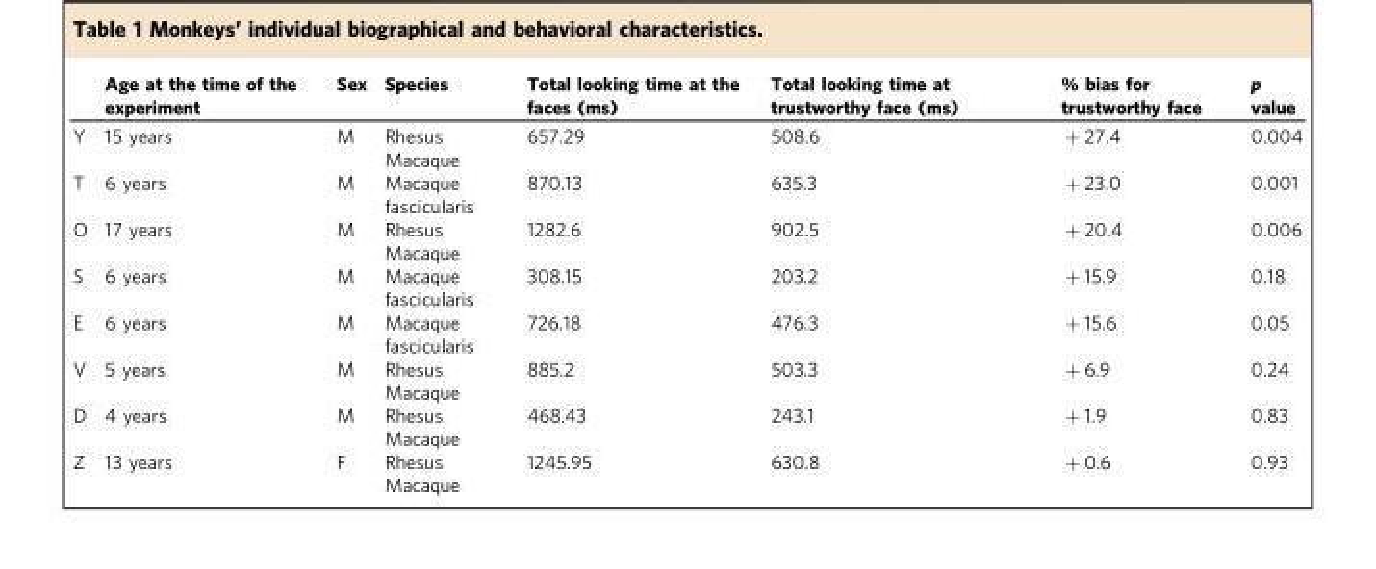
<table><thead><tr><td></td><td>Age at the time of the experiment</td><td>Sex</td><td>Species</td><td>Total looking time at the faces (ms)</td><td>Total looking time at trustworthy face (ms)</td><td>% bias for trustworthy face</td><td>p value</td></tr></thead><tbody><tr><td>Y</td><td>15 years</td><td>M</td><td>Rhesus Macaque</td><td>657.29</td><td>508.6</td><td>+ 27.4</td><td>0.004</td></tr><tr><td>T</td><td>6 years</td><td>M</td><td>Macaque fascicularis</td><td>870.13</td><td>635.3</td><td>+ 23.0</td><td>0.001</td></tr><tr><td>O</td><td>17 years</td><td>M</td><td>Rhesus Macaque</td><td>1282.6</td><td>902.5</td><td>+ 20.4</td><td>0.006</td></tr><tr><td>S</td><td>6 years</td><td>M</td><td>Macaque fascicularis</td><td>308.15</td><td>203.2</td><td>+ 15.9</td><td>0.18</td></tr><tr><td>E</td><td>6 years</td><td>M</td><td>Macaque fascicularis</td><td>726.18</td><td>476.3</td><td>+ 15.6</td><td>0.05</td></tr><tr><td>V</td><td>5 years</td><td>M</td><td>Rhesus Macaque</td><td>885.2</td><td>503.3</td><td>+ 6.9</td><td>0.24</td></tr><tr><td>D</td><td>4 years</td><td>M</td><td>Rhesus Macaque</td><td>468.43</td><td>243.1</td><td>+ 1.9</td><td>0.83</td></tr><tr><td>Z</td><td>13 years</td><td>F</td><td>Rhesus Macaque</td><td>1245.95</td><td>630.8</td><td>+ 0.6</td><td>0.93</td></tr></tbody></table>